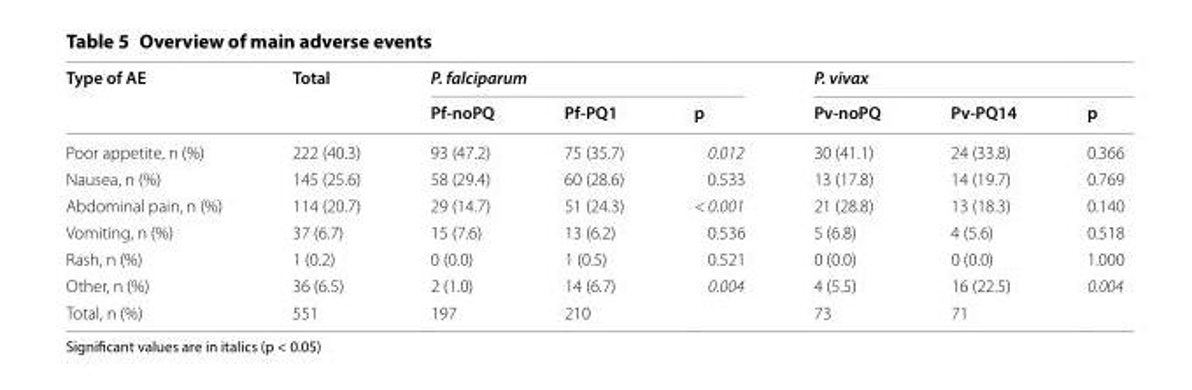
<table><thead><tr><td rowspan="2">Type of AE</td><td rowspan="2">Total</td><td colspan="3">P. falciparum</td><td colspan="3">P. vivax</td></tr><tr><td>Pf-noPQ</td><td>Pf-PQ1</td><td>p</td><td>Pv-noPQ</td><td>Pv-PQ14</td><td>p</td></tr></thead><tbody><tr><td>Poor appetite, n (%)</td><td>222 (40.3)</td><td>93 (47.2)</td><td>75 (35.7)</td><td>0.012</td><td>30 (41.1)</td><td>24 (33.8)</td><td>0.366</td></tr><tr><td>Nausea, n (%)</td><td>145 (25.6)</td><td>58 (29.4)</td><td>60 (28.6)</td><td>0.533</td><td>13 (17.8)</td><td>14 (19.7)</td><td>0.769</td></tr><tr><td>Abdominal pain, n (%)</td><td>114 (20.7)</td><td>29 (14.7)</td><td>51 (24.3)</td><td>&lt; 0.001</td><td>21 (28.8)</td><td>13 (18.3)</td><td>0.140</td></tr><tr><td>Vomiting, n (%)</td><td>37 (6.7)</td><td>15 (7.6)</td><td>13 (6.2)</td><td>0.536</td><td>5 (6.8)</td><td>4 (5.6)</td><td>0.518</td></tr><tr><td>Rash, n (%)</td><td>1 (0.2)</td><td>0 (0.0)</td><td>1 (0.5)</td><td>0.521</td><td>0 (0.0)</td><td>0 (0.0)</td><td>1.000</td></tr><tr><td>Other, n (%)</td><td>36 (6.5)</td><td>2 (1.0)</td><td>14 (6.7)</td><td>0.004</td><td>4 (5.5)</td><td>16 (22.5)</td><td>0.004</td></tr><tr><td>Total, n (%)</td><td>551</td><td>197</td><td>210</td><td></td><td>73</td><td>71</td><td></td></tr></tbody></table>